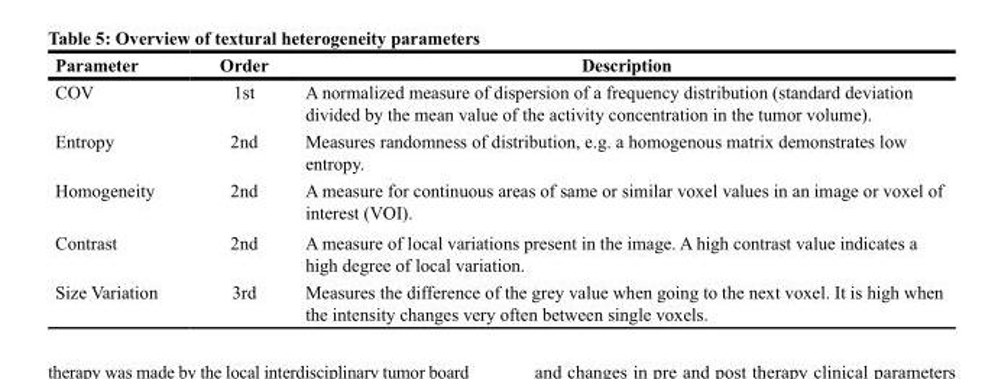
<table><thead><tr><td>Parameter</td><td>Order</td><td>Description</td></tr></thead><tbody><tr><td>COV</td><td>1st</td><td>A normalized measure of dispersion of a frequency distribution (standard deviation divided by the mean value of the activity concentration in the tumor volume).</td></tr><tr><td>Entropy</td><td>2nd</td><td>Measures randomness of distribution, e.g. a homogenous matrix demonstrates low entropy.</td></tr><tr><td>Homogeneity</td><td>2nd</td><td>A measure for continuous areas of same or similar voxel values in an image or voxel of interest (VOI).</td></tr><tr><td>Contrast</td><td>2nd</td><td>A measure of local variations present in the image. A high contrast value indicates a high degree of local variation.</td></tr><tr><td>Size Variation</td><td>3rd</td><td>Measures the difference of the grey value when going to the next voxel. It is high when the intensity changes very often between single voxels.</td></tr></tbody></table>